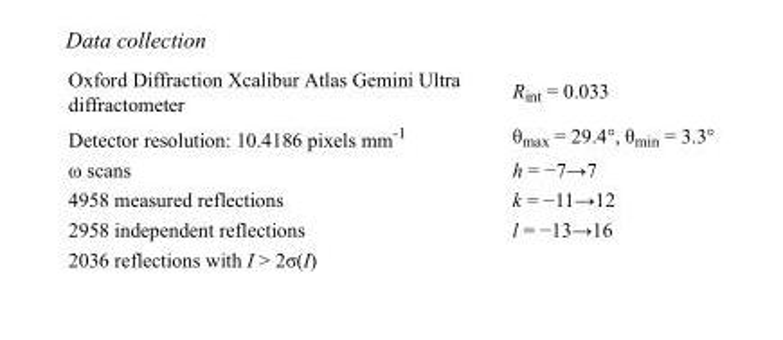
<table><tbody><tr><td>Oxford Diffraction Xcalibur Atlas Gemini Ultra diffractometer</td><td>R<sub>int</sub> = 0.033</td></tr><tr><td>Detector resolution: 10.4186 pixels mm<sup>-1</sup></td><td>θ<sub>max</sub> = 29.4°, θ<sub>min</sub> = 3.3°</td></tr><tr><td>ω scans</td><td>h = −7→7</td></tr><tr><td>4958 measured reflections</td><td>k = −11→12</td></tr><tr><td>2958 independent reflections</td><td>l = −13→16</td></tr><tr><td>2036 reflections with I &gt; 2σ(I)</td><td></td></tr></tbody></table>